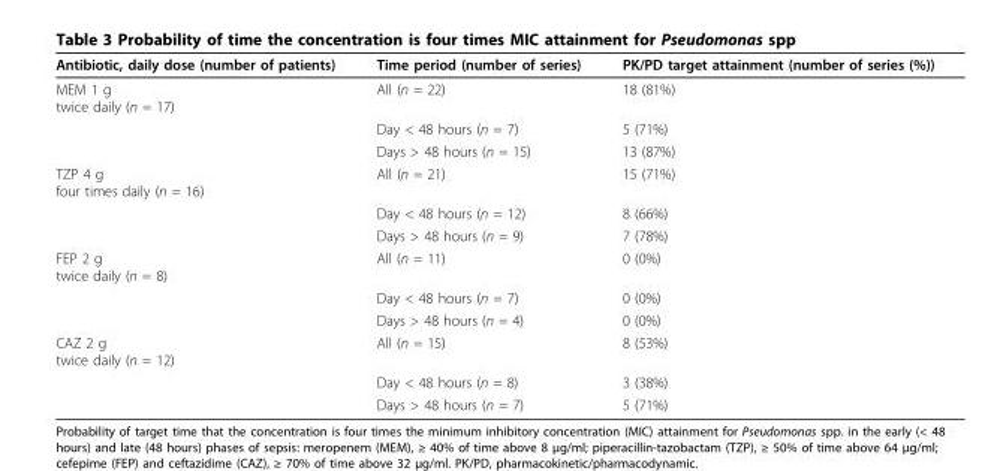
<table><thead><tr><td>Antibiotic, daily dose (number of patients)</td><td>Time period (number of series)</td><td>PK/PD target attainment (number of series (%))</td></tr></thead><tbody><tr><td rowspan="3">MEM 1 g twice daily (n = 17)</td><td>All (n = 22)</td><td>18 (81%)</td></tr><tr><td>Day &lt; 48 hours (n = 7)</td><td>5 (71%)</td></tr><tr><td>Days &gt; 48 hours (n = 15)</td><td>13 (87%)</td></tr><tr><td rowspan="3">TZP 4 g four times daily (n = 16)</td><td>All (n = 21)</td><td>15 (71%)</td></tr><tr><td>Day &lt; 48 hours (n = 12)</td><td>8 (66%)</td></tr><tr><td>Days &gt; 48 hours (n = 9)</td><td>7 (78%)</td></tr><tr><td rowspan="3">FEP 2 g twice daily (n = 8)</td><td>All (n = 11)</td><td>0 (0%)</td></tr><tr><td>Day &lt; 48 hours (n = 7)</td><td>0 (0%)</td></tr><tr><td>Days &gt; 48 hours (n = 4)</td><td>0 (0%)</td></tr><tr><td rowspan="3">CAZ 2 g twice daily (n = 12)</td><td>All (n = 15)</td><td>8 (53%)</td></tr><tr><td>Day &lt; 48 hours (n = 8)</td><td>3 (38%)</td></tr><tr><td>Days &gt; 48 hours (n = 7)</td><td>5 (71%)</td></tr></tbody></table>